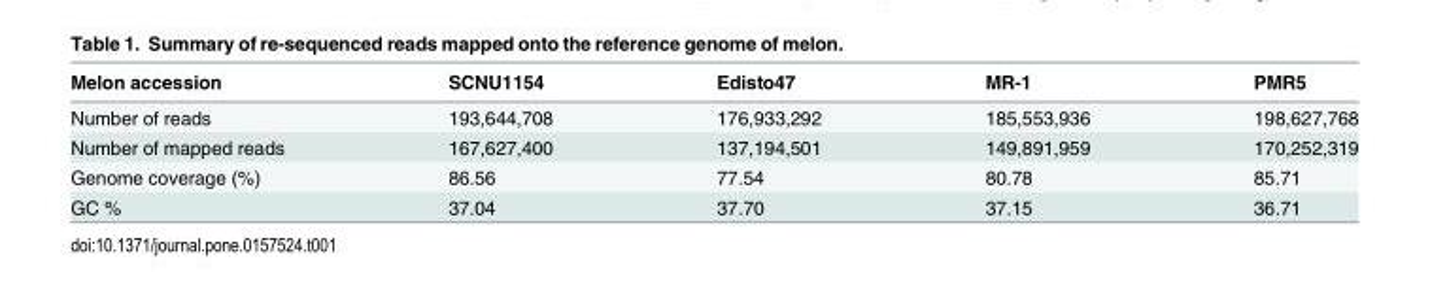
<table><thead><tr><td>Melon accession</td><td>SCNU1154</td><td>Edisto47</td><td>MR-1</td><td>PMR5</td></tr></thead><tbody><tr><td>Number of reads</td><td>193,644,708</td><td>176,933,292</td><td>185,553,936</td><td>198,627,768</td></tr><tr><td>Number of mapped reads</td><td>167,627,400</td><td>137,194,501</td><td>149,891,959</td><td>170,252,319</td></tr><tr><td>Genome coverage (%)</td><td>86.56</td><td>77.54</td><td>80.78</td><td>85.71</td></tr><tr><td>GC %</td><td>37.04</td><td>37.70</td><td>37.15</td><td>36.71</td></tr></tbody></table>